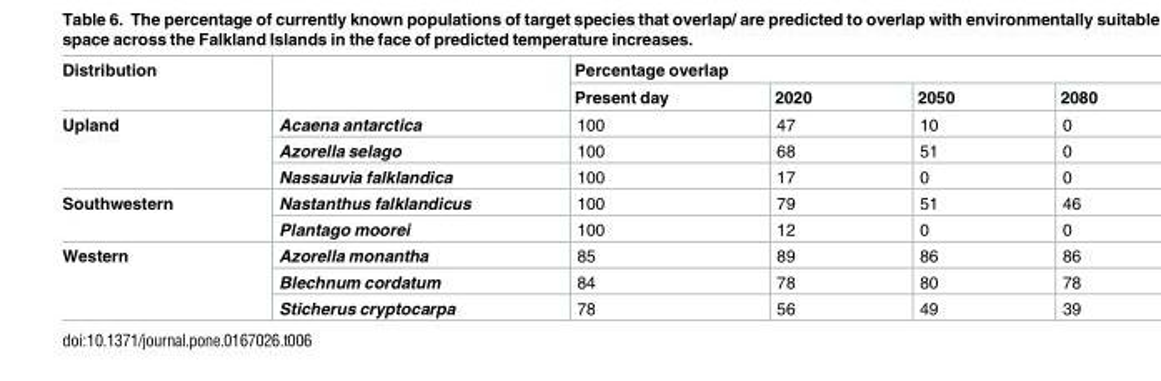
<table><thead><tr><td rowspan="2">Distribution</td><td rowspan="2"></td><td colspan="4">Percentage overlap</td></tr><tr><td>Present day</td><td>2020</td><td>2050</td><td>2080</td></tr></thead><tbody><tr><td rowspan="3">Upland</td><td>Acaena antarctica</td><td>100</td><td>47</td><td>10</td><td>0</td></tr><tr><td>Azorella selago</td><td>100</td><td>68</td><td>51</td><td>0</td></tr><tr><td>Nassauvia falklandica</td><td>100</td><td>17</td><td>0</td><td>0</td></tr><tr><td rowspan="2">Southwestern</td><td>Nastanthus falklandicus</td><td>100</td><td>79</td><td>51</td><td>46</td></tr><tr><td>Plantago moorei</td><td>100</td><td>12</td><td>0</td><td>0</td></tr><tr><td rowspan="3">Western</td><td>Azorella monantha</td><td>85</td><td>89</td><td>86</td><td>86</td></tr><tr><td>Blechnum cordatum</td><td>84</td><td>78</td><td>80</td><td>78</td></tr><tr><td>Sticherus cryptocarpa</td><td>78</td><td>56</td><td>49</td><td>39</td></tr></tbody></table>